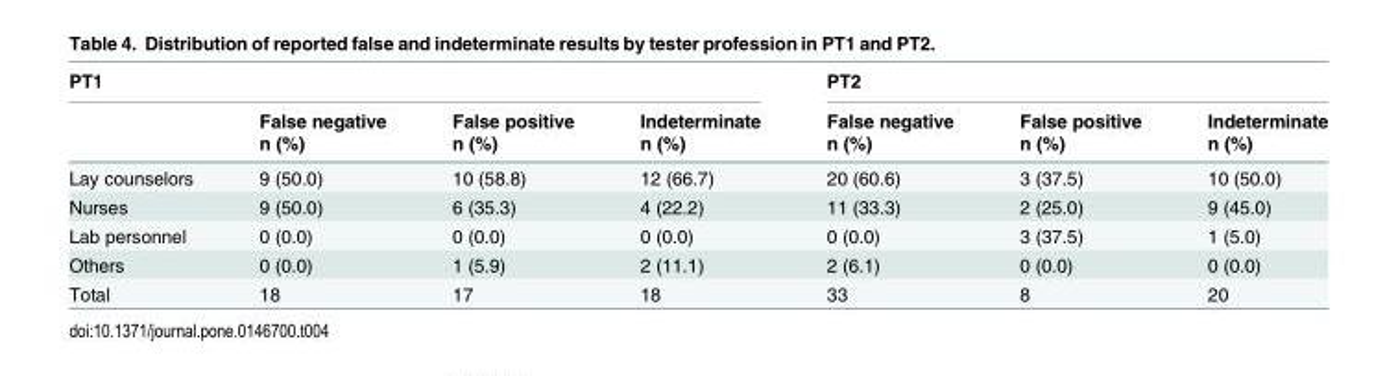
<table><thead><tr><td colspan="4">PT1</td><td colspan="3">PT2</td></tr><tr><td rowspan="2"></td><td rowspan="2">False negative n (%)</td><td rowspan="2">False positive n (%)</td><td rowspan="2">Indeterminate n (%)</td><td rowspan="2">False negative n (%)</td><td rowspan="2">False positive n (%)</td><td rowspan="2">Indeterminate n (%)</td></tr><tr></tr></thead><tbody><tr><td>Lay counselors</td><td>9 (50.0)</td><td>10 (58.8)</td><td>12 (66.7)</td><td>20 (60.6)</td><td>3 (37.5)</td><td>10 (50.0)</td></tr><tr><td>Nurses</td><td>9 (50.0)</td><td>6 (35.3)</td><td>4 (22.2)</td><td>11 (33.3)</td><td>2 (25.0)</td><td>9 (45.0)</td></tr><tr><td>Lab personnel</td><td>0 (0.0)</td><td>0 (0.0)</td><td>0 (0.0)</td><td>0 (0.0)</td><td>3 (37.5)</td><td>1 (5.0)</td></tr><tr><td>Others</td><td>0 (0.0)</td><td>1 (5.9)</td><td>2 (11.1)</td><td>2 (6.1)</td><td>0 (0.0)</td><td>0 (0.0)</td></tr><tr><td>Total</td><td>18</td><td>17</td><td>18</td><td>33</td><td>8</td><td>20</td></tr></tbody></table>